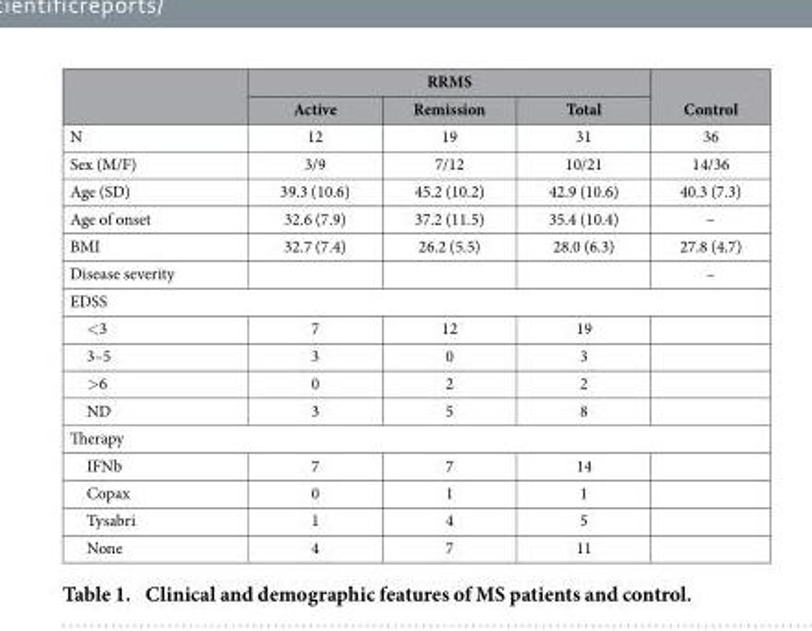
<table><thead><tr><td rowspan="2"></td><td colspan="3">RRMS</td><td rowspan="2">Control</td></tr><tr><td>Active</td><td>Remission</td><td>Total</td></tr></thead><tbody><tr><td>N</td><td>12</td><td>19</td><td>31</td><td>36</td></tr><tr><td>Sex (M/F)</td><td>3/9</td><td>7/12</td><td>10/21</td><td>14/36</td></tr><tr><td>Age (SD)</td><td>39.3 (10.6)</td><td>45.2 (10.2)</td><td>42.9 (10.6)</td><td>40.3 (7.3)</td></tr><tr><td>Age of onset</td><td>32.6 (7.9)</td><td>37.2 (11.5)</td><td>35.4 (10.4)</td><td>–</td></tr><tr><td>BMI</td><td>32.7 (7.4)</td><td>26.2 (5.5)</td><td>28.0 (6.3)</td><td>27.8 (4.7)</td></tr><tr><td>Disease severity</td><td></td><td></td><td></td><td>–</td></tr><tr><td colspan="5">EDSS</td></tr><tr><td>&lt; 3</td><td>7</td><td>12</td><td>19</td><td></td></tr><tr><td>3–5</td><td>3</td><td>0</td><td>3</td><td></td></tr><tr><td>&gt; 6</td><td>0</td><td>2</td><td>2</td><td></td></tr><tr><td>ND</td><td>3</td><td>5</td><td>8</td><td></td></tr><tr><td colspan="5">Therapy</td></tr><tr><td>IFNb</td><td>7</td><td>7</td><td>14</td><td></td></tr><tr><td>Copax</td><td>0</td><td>1</td><td>1</td><td></td></tr><tr><td>Tysabri</td><td>1</td><td>4</td><td>5</td><td></td></tr><tr><td>None</td><td>4</td><td>7</td><td>11</td><td></td></tr></tbody></table>